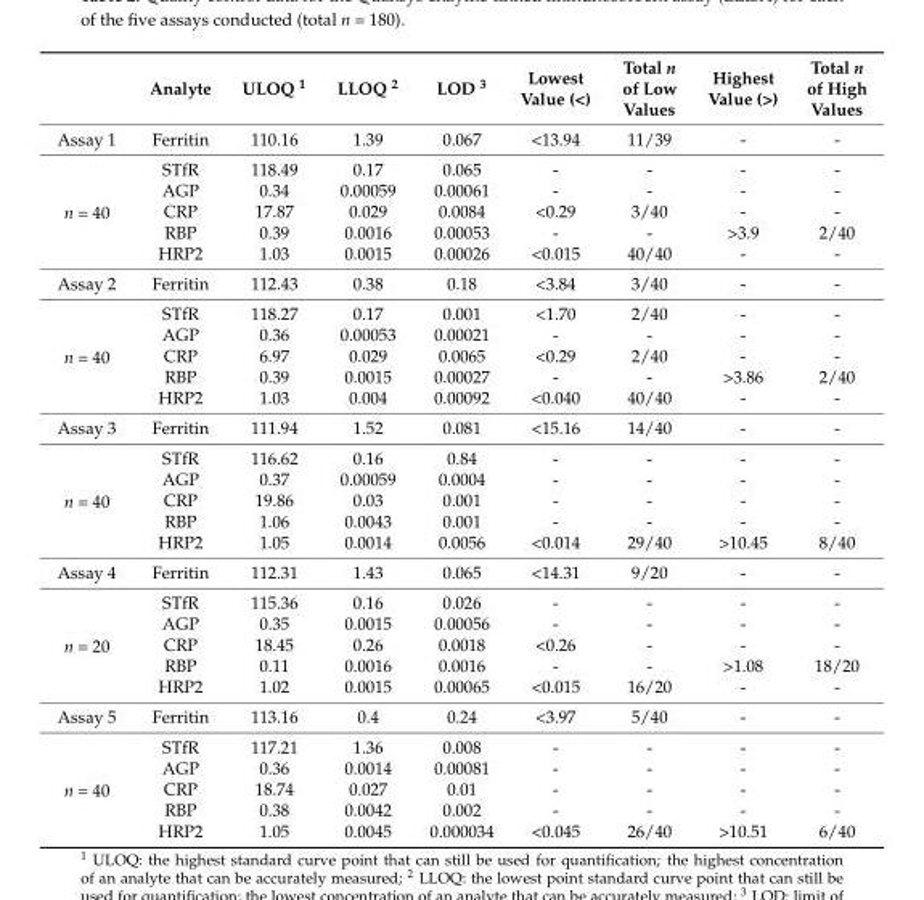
<table><thead><tr><td></td><td>Analyte</td><td>ULOQ <sup>1</sup></td><td>LLOQ <sup>2</sup></td><td>LOD <sup>3</sup></td><td>Lowest Value (&lt;)</td><td>Total n of Low Values</td><td>Highest Value (&gt;)</td><td>Total n of High Values</td></tr></thead><tbody><tr><td>Assay 1</td><td>Ferritin</td><td>110.16</td><td>1.39</td><td>0.067</td><td>&lt;13.94</td><td>11/39</td><td>-</td><td>-</td></tr><tr><td rowspan="5">n = 40</td><td>STfR</td><td>118.49</td><td>0.17</td><td>0.065</td><td>-</td><td>-</td><td>-</td><td>-</td></tr><tr><td>AGP</td><td>0.34</td><td>0.00059</td><td>0.00061</td><td>-</td><td>-</td><td>-</td><td>-</td></tr><tr><td>CRP</td><td>17.87</td><td>0.029</td><td>0.0084</td><td>&lt;0.29</td><td>3/40</td><td>-</td><td>-</td></tr><tr><td>RBP</td><td>0.39</td><td>0.0016</td><td>0.00053</td><td>-</td><td>-</td><td>&gt;3.9</td><td>2/40</td></tr><tr><td>HRP2</td><td>1.03</td><td>0.0015</td><td>0.00026</td><td>&lt;0.015</td><td>40/40</td><td>-</td><td>-</td></tr><tr><td>Assay 2</td><td>Ferritin</td><td>112.43</td><td>0.38</td><td>0.18</td><td>&lt;3.84</td><td>3/40</td><td>-</td><td>-</td></tr><tr><td rowspan="5">n = 40</td><td>STfR</td><td>118.27</td><td>0.17</td><td>0.001</td><td>&lt;1.70</td><td>2/40</td><td>-</td><td>-</td></tr><tr><td>AGP</td><td>0.36</td><td>0.00053</td><td>0.00021</td><td>-</td><td>-</td><td>-</td><td>-</td></tr><tr><td>CRP</td><td>6.97</td><td>0.029</td><td>0.0065</td><td>&lt;0.29</td><td>2/40</td><td>-</td><td>-</td></tr><tr><td>RBP</td><td>0.39</td><td>0.0015</td><td>0.00027</td><td>-</td><td>-</td><td>&gt;3.86</td><td>2/40</td></tr><tr><td>HRP2</td><td>1.03</td><td>0.004</td><td>0.00092</td><td>&lt;0.040</td><td>40/40</td><td>-</td><td>-</td></tr><tr><td>Assay 3</td><td>Ferritin</td><td>111.94</td><td>1.52</td><td>0.081</td><td>&lt;15.16</td><td>14/40</td><td>-</td><td>-</td></tr><tr><td rowspan="5">n = 40</td><td>STfR</td><td>116.62</td><td>0.16</td><td>0.84</td><td>-</td><td>-</td><td>-</td><td>-</td></tr><tr><td>AGP</td><td>0.37</td><td>0.00059</td><td>0.0004</td><td>-</td><td>-</td><td>-</td><td>-</td></tr><tr><td>CRP</td><td>19.86</td><td>0.03</td><td>0.001</td><td>-</td><td>-</td><td>-</td><td>-</td></tr><tr><td>RBP</td><td>1.06</td><td>0.0043</td><td>0.001</td><td>-</td><td>-</td><td>-</td><td>-</td></tr><tr><td>HRP2</td><td>1.05</td><td>0.0014</td><td>0.0056</td><td>&lt;0.014</td><td>29/40</td><td>&gt;10.45</td><td>8/40</td></tr><tr><td>Assay 4</td><td>Ferritin</td><td>112.31</td><td>1.43</td><td>0.065</td><td>&lt;14.31</td><td>9/20</td><td>-</td><td>-</td></tr><tr><td rowspan="5">n = 20</td><td>STfR</td><td>115.36</td><td>0.16</td><td>0.026</td><td>-</td><td>-</td><td>-</td><td>-</td></tr><tr><td>AGP</td><td>0.35</td><td>0.0015</td><td>0.00056</td><td>-</td><td>-</td><td>-</td><td>-</td></tr><tr><td>CRP</td><td>18.45</td><td>0.26</td><td>0.0018</td><td>&lt;0.26</td><td>-</td><td>-</td><td>-</td></tr><tr><td>RBP</td><td>0.11</td><td>0.0016</td><td>0.0016</td><td>-</td><td>-</td><td>&gt;1.08</td><td>18/20</td></tr><tr><td>HRP2</td><td>1.02</td><td>0.0015</td><td>0.00065</td><td>&lt;0.015</td><td>16/20</td><td>-</td><td>-</td></tr><tr><td>Assay 5</td><td>Ferritin</td><td>113.16</td><td>0.4</td><td>0.24</td><td>&lt;3.97</td><td>5/40</td><td>-</td><td>-</td></tr><tr><td rowspan="5">n = 40</td><td>STfR</td><td>117.21</td><td>1.36</td><td>0.008</td><td>-</td><td>-</td><td>-</td><td>-</td></tr><tr><td>AGP</td><td>0.36</td><td>0.0014</td><td>0.00081</td><td>-</td><td>-</td><td>-</td><td>-</td></tr><tr><td>CRP</td><td>18.74</td><td>0.027</td><td>0.01</td><td>-</td><td>-</td><td>-</td><td>-</td></tr><tr><td>RBP</td><td>0.38</td><td>0.0042</td><td>0.002</td><td>-</td><td>-</td><td>-</td><td>-</td></tr><tr><td>HRP2</td><td>1.05</td><td>0.0045</td><td>0.000034</td><td>&lt;0.045</td><td>26/40</td><td>&gt;10.51</td><td>6/40</td></tr></tbody></table>